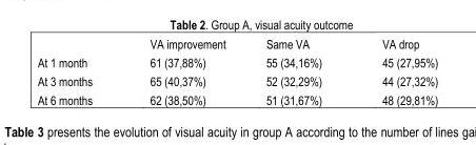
<table><thead><tr><td></td><td>VA improvement</td><td>Same VA</td><td>VA drop</td></tr></thead><tbody><tr><td>At 1 month</td><td>61 (37,88%)</td><td>55 (34,16%)</td><td>45 (27,95%)</td></tr><tr><td>At 3 months</td><td>65 (40,37%)</td><td>52 (32,29%)</td><td>44 (27,32%)</td></tr><tr><td>At 6 months</td><td>62 (38,50%)</td><td>51 (31,67%)</td><td>48 (29,81%)</td></tr></tbody></table>